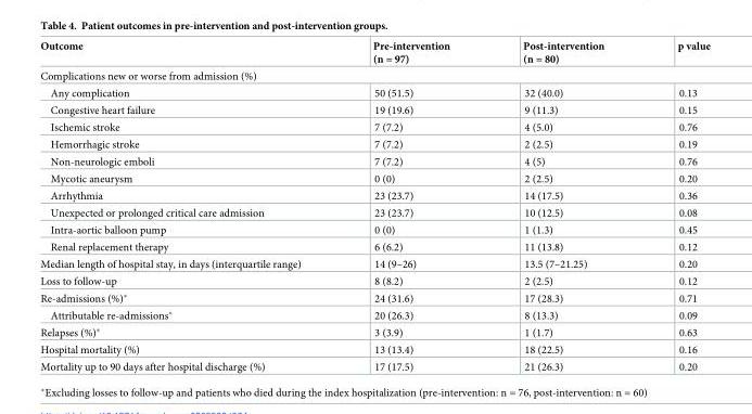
<table><thead><tr><td>Outcome</td><td>Pre-intervention (n = 97)</td><td>Post-intervention (n = 80)</td><td>p value</td></tr></thead><tbody><tr><td colspan="4">Complications new or worse from admission (%)</td></tr><tr><td>Any complication</td><td>50 (51.5)</td><td>32 (40.0)</td><td>0.13</td></tr><tr><td>Congestive heart failure</td><td>19 (19.6)</td><td>9 (11.3)</td><td>0.15</td></tr><tr><td>Ischemic stroke</td><td>7 (7.2)</td><td>4 (5.0)</td><td>0.76</td></tr><tr><td>Hemorrhagic stroke</td><td>7 (7.2)</td><td>2 (2.5)</td><td>0.19</td></tr><tr><td>Non-neurologic emboli</td><td>7 (7.2)</td><td>4 (5)</td><td>0.76</td></tr><tr><td>Mycotic aneurysm</td><td>0 (0)</td><td>2 (2.5)</td><td>0.20</td></tr><tr><td>Arrhythmia</td><td>23 (23.7)</td><td>14 (17.5)</td><td>0.36</td></tr><tr><td>Unexpected or prolonged critical care admission</td><td>23 (23.7)</td><td>10 (12.5)</td><td>0.08</td></tr><tr><td>Intra-aortic balloon pump</td><td>0 (0)</td><td>1 (1.3)</td><td>0.45</td></tr><tr><td>Renal replacement therapy</td><td>6 (6.2)</td><td>11 (13.8)</td><td>0.12</td></tr><tr><td>Median length of hospital stay, in days (interquartile range)</td><td>14 (9–26)</td><td>13.5 (7–21.25)</td><td>0.20</td></tr><tr><td>Loss to follow-up</td><td>8 (8.2)</td><td>2 (2.5)</td><td>0.12</td></tr><tr><td>Re-admissions (%)*</td><td>24 (31.6)</td><td>17 (28.3)</td><td>0.71</td></tr><tr><td>Attributable re-admissions*</td><td>20 (26.3)</td><td>8 (13.3)</td><td>0.09</td></tr><tr><td>Relapses (%)*</td><td>3 (3.9)</td><td>1 (1.7)</td><td>0.63</td></tr><tr><td>Hospital mortality (%)</td><td>13 (13.4)</td><td>18 (22.5)</td><td>0.16</td></tr><tr><td>Mortality up to 90 days after hospital discharge (%)</td><td>17 (17.5)</td><td>21 (26.3)</td><td>0.20</td></tr></tbody></table>